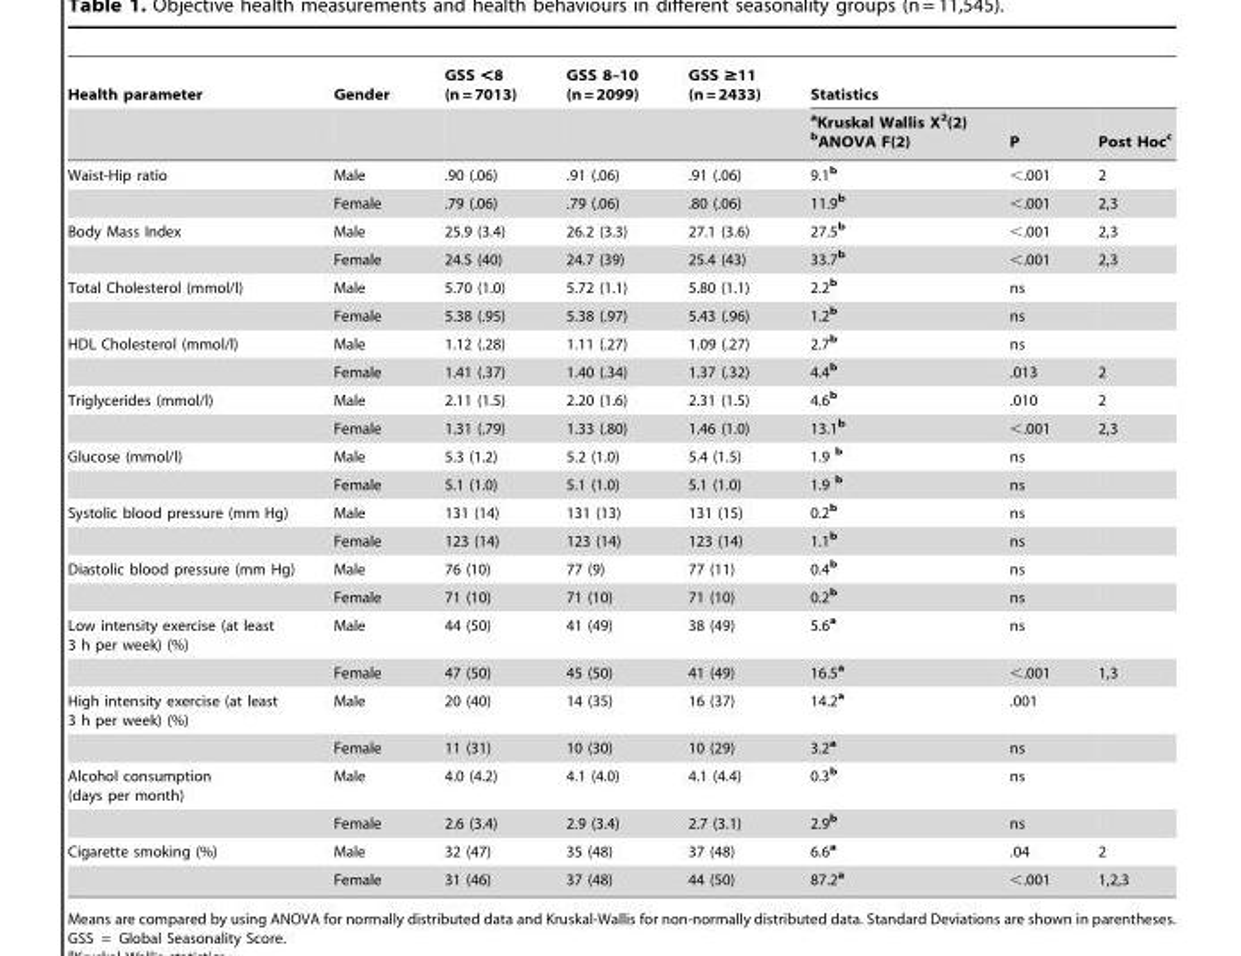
<table><thead><tr><td rowspan="2">Health parameter</td><td rowspan="2">Gender</td><td rowspan="2">GSS &lt;8 (n = 7013)</td><td rowspan="2">GSS 8–10 (n = 2099)</td><td rowspan="2">GSS ≥11 (n = 2433)</td><td colspan="3">Statistics</td></tr><tr><td>aKruskal Wallis X<sup>2</sup>(2) bANOVA F(2)</td><td>P</td><td>Post Hoc<sup>c</sup></td></tr></thead><tbody><tr><td rowspan="2">Waist-Hip ratio</td><td>Male</td><td>.90 (.06)</td><td>.91 (.06)</td><td>.91 (.06)</td><td>9.1<sup>b</sup></td><td>&lt;.001</td><td>2</td></tr><tr><td>Female</td><td>.79 (.06)</td><td>.79 (.06)</td><td>.80 (.06)</td><td>11.9<sup>b</sup></td><td>&lt;.001</td><td>2,3</td></tr><tr><td rowspan="2">Body Mass Index</td><td>Male</td><td>25.9 (3.4)</td><td>26.2 (3.3)</td><td>27.1 (3.6)</td><td>27.5<sup>b</sup></td><td>&lt;.001</td><td>2,3</td></tr><tr><td>Female</td><td>24.5 (40)</td><td>24.7 (39)</td><td>25.4 (43)</td><td>33.7<sup>b</sup></td><td>&lt;.001</td><td>2,3</td></tr><tr><td rowspan="2">Total Cholesterol (mmol/l)</td><td>Male</td><td>5.70 (1.0)</td><td>5.72 (1.1)</td><td>5.80 (1.1)</td><td>2.2<sup>b</sup></td><td>ns</td><td></td></tr><tr><td>Female</td><td>5.38 (.95)</td><td>5.38 (.97)</td><td>5.43 (.96)</td><td>1.2<sup>b</sup></td><td>ns</td><td></td></tr><tr><td rowspan="2">HDL Cholesterol (mmol/l)</td><td>Male</td><td>1.12 (.28)</td><td>1.11 (.27)</td><td>1.09 (.27)</td><td>2.7<sup>b</sup></td><td>ns</td><td></td></tr><tr><td>Female</td><td>1.41 (.37)</td><td>1.40 (.34)</td><td>1.37 (.32)</td><td>4.4<sup>b</sup></td><td>.013</td><td>2</td></tr><tr><td rowspan="2">Triglycerides (mmol/l)</td><td>Male</td><td>2.11 (1.5)</td><td>2.20 (1.6)</td><td>2.31 (1.5)</td><td>4.6<sup>b</sup></td><td>.010</td><td>2</td></tr><tr><td>Female</td><td>1.31 (.79)</td><td>1.33 (.80)</td><td>1.46 (1.0)</td><td>13.1<sup>b</sup></td><td>&lt;.001</td><td>2,3</td></tr><tr><td rowspan="2">Glucose (mmol/l)</td><td>Male</td><td>5.3 (1.2)</td><td>5.2 (1.0)</td><td>5.4 (1.5)</td><td>1.9 b</td><td>ns</td><td></td></tr><tr><td>Female</td><td>5.1 (1.0)</td><td>5.1 (1.0)</td><td>5.1 (1.0)</td><td>1.9 b</td><td>ns</td><td></td></tr><tr><td rowspan="2">Systolic blood pressure (mm Hg)</td><td>Male</td><td>131 (14)</td><td>131 (13)</td><td>131 (15)</td><td>0.2<sup>b</sup></td><td>ns</td><td></td></tr><tr><td>Female</td><td>123 (14)</td><td>123 (14)</td><td>123 (14)</td><td>1.1<sup>b</sup></td><td>ns</td><td></td></tr><tr><td rowspan="2">Diastolic blood pressure (mm Hg)</td><td>Male</td><td>76 (10)</td><td>77 (9)</td><td>77 (11)</td><td>0.4<sup>b</sup></td><td>ns</td><td></td></tr><tr><td>Female</td><td>71 (10)</td><td>71 (10)</td><td>71 (10)</td><td>0.2<sup>b</sup></td><td>ns</td><td></td></tr><tr><td rowspan="2">Low intensity exercise (at least 3 h per week) (%)</td><td>Male</td><td>44 (50)</td><td>41 (49)</td><td>38 (49)</td><td>5.6<sup>a</sup></td><td>ns</td><td></td></tr><tr><td>Female</td><td>47 (50)</td><td>45 (50)</td><td>41 (49)</td><td>16.5<sup>a</sup></td><td>&lt;.001</td><td>1,3</td></tr><tr><td rowspan="2">High intensity exercise (at least 3 h per week) (%)</td><td>Male</td><td>20 (40)</td><td>14 (35)</td><td>16 (37)</td><td>14.2<sup>a</sup></td><td>.001</td><td></td></tr><tr><td>Female</td><td>11 (31)</td><td>10 (30)</td><td>10 (29)</td><td>3.2<sup>a</sup></td><td>ns</td><td></td></tr><tr><td rowspan="2">Alcohol consumption (days per month)</td><td>Male</td><td>4.0 (4.2)</td><td>4.1 (4.0)</td><td>4.1 (4.4)</td><td>0.3<sup>b</sup></td><td>ns</td><td></td></tr><tr><td>Female</td><td>2.6 (3.4)</td><td>2.9 (3.4)</td><td>2.7 (3.1)</td><td>2.9<sup>b</sup></td><td>ns</td><td></td></tr><tr><td rowspan="2">Cigarette smoking (%)</td><td>Male</td><td>32 (47)</td><td>35 (48)</td><td>37 (48)</td><td>6.6<sup>a</sup></td><td>.04</td><td>2</td></tr><tr><td>Female</td><td>31 (46)</td><td>37 (48)</td><td>44 (50)</td><td>87.2<sup>a</sup></td><td>&lt;.001</td><td>1,2,3</td></tr></tbody></table>